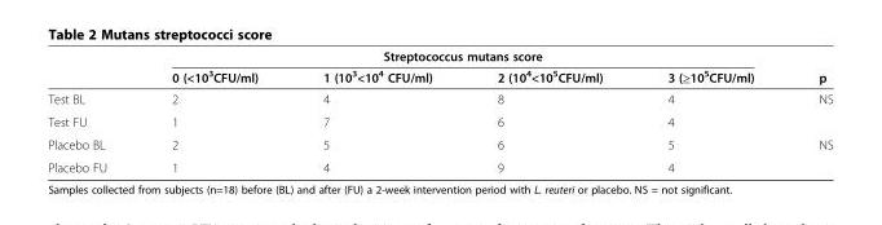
<table><thead><tr><td rowspan="2"></td><td colspan="4">Streptococcus mutans score</td><td rowspan="2">p</td></tr><tr><td>0 (&lt;10<sup>3</sup>CFU/ml)</td><td>1 (10<sup>3</sup>&lt;10<sup>4</sup> CFU/ml)</td><td>2 (10<sup>4</sup>&lt;10<sup>5</sup>CFU/ml)</td><td>3 (≥10<sup>5</sup>CFU/ml)</td></tr></thead><tbody><tr><td>Test BL</td><td>2</td><td>4</td><td>8</td><td>4</td><td>NS</td></tr><tr><td>Test FU</td><td>1</td><td>7</td><td>6</td><td>4</td><td></td></tr><tr><td>Placebo BL</td><td>2</td><td>5</td><td>6</td><td>5</td><td>NS</td></tr><tr><td>Placebo FU</td><td>1</td><td>4</td><td>9</td><td>4</td><td></td></tr></tbody></table>